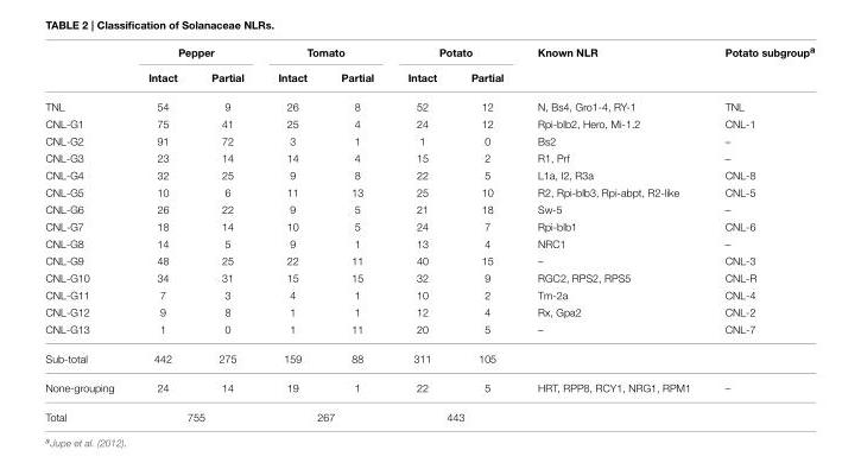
<table><thead><tr><td rowspan="2"></td><td colspan="2">Pepper</td><td colspan="2">Tomato</td><td colspan="2">Potato</td><td rowspan="2">Known NLR</td><td rowspan="2">Potato subgroup<sup>a</sup></td></tr><tr><td>Intact</td><td>Partial</td><td>Intact</td><td>Partial</td><td>Intact</td><td>Partial</td></tr></thead><tbody><tr><td>TNL</td><td>54</td><td>9</td><td>26</td><td>8</td><td>52</td><td>12</td><td>N, Bs4, Gro1-4, RY-1</td><td>TNL</td></tr><tr><td>CNL-G1</td><td>75</td><td>41</td><td>25</td><td>4</td><td>24</td><td>12</td><td>Rpi-blb2, Hero, Mi-1.2</td><td>CNL-1</td></tr><tr><td>CNL-G2</td><td>91</td><td>72</td><td>3</td><td>1</td><td>1</td><td>0</td><td>Bs2</td><td>–</td></tr><tr><td>CNL-G3</td><td>23</td><td>14</td><td>14</td><td>4</td><td>15</td><td>2</td><td>R1, Prf</td><td>–</td></tr><tr><td>CNL-G4</td><td>32</td><td>25</td><td>9</td><td>8</td><td>22</td><td>5</td><td>L1a, I2, R3a</td><td>CNL-8</td></tr><tr><td>CNL-G5</td><td>10</td><td>6</td><td>11</td><td>13</td><td>25</td><td>10</td><td>R2, Rpi-blb3, Rpi-abpt, R2-like</td><td>CNL-5</td></tr><tr><td>CNL-G6</td><td>26</td><td>22</td><td>9</td><td>5</td><td>21</td><td>18</td><td>Sw-5</td><td>–</td></tr><tr><td>CNL-G7</td><td>18</td><td>14</td><td>10</td><td>5</td><td>24</td><td>7</td><td>Rpi-blb1</td><td>CNL-6</td></tr><tr><td>CNL-G8</td><td>14</td><td>5</td><td>9</td><td>1</td><td>13</td><td>4</td><td>NRC1</td><td>–</td></tr><tr><td>CNL-G9</td><td>48</td><td>25</td><td>22</td><td>11</td><td>40</td><td>15</td><td>–</td><td>CNL-3</td></tr><tr><td>CNL-G10</td><td>34</td><td>31</td><td>15</td><td>15</td><td>32</td><td>9</td><td>RGC2, RPS2, RPS5</td><td>CNL-R</td></tr><tr><td>CNL-G11</td><td>7</td><td>3</td><td>4</td><td>1</td><td>10</td><td>2</td><td>Tm-2a</td><td>CNL-4</td></tr><tr><td>CNL-G12</td><td>9</td><td>8</td><td>1</td><td>1</td><td>12</td><td>4</td><td>Rx, Gpa2</td><td>CNL-2</td></tr><tr><td>CNL-G13</td><td>1</td><td>0</td><td>1</td><td>11</td><td>20</td><td>5</td><td>–</td><td>CNL-7</td></tr><tr><td>Sub-total</td><td>442</td><td>275</td><td>159</td><td>88</td><td>311</td><td>105</td><td></td><td></td></tr><tr><td>None-grouping</td><td>24</td><td>14</td><td>19</td><td>1</td><td>22</td><td>5</td><td>HRT, RPP8, RCY1, NRG1, RPM1</td><td>–</td></tr><tr><td>Total</td><td colspan="2">755</td><td colspan="2">267</td><td colspan="2">443</td><td></td><td></td></tr></tbody></table>